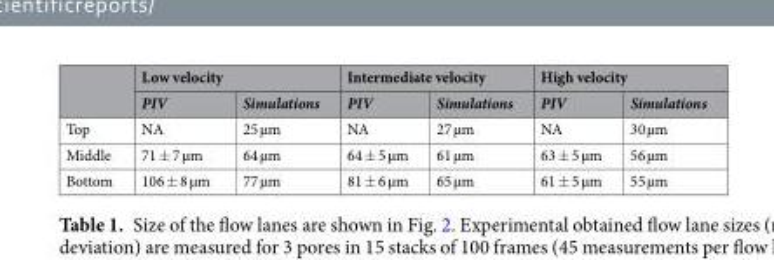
<table><thead><tr><td rowspan="2"></td><td colspan="2">Low velocity</td><td colspan="2">Intermediate velocity</td><td colspan="2">High velocity</td></tr><tr><td>PIV</td><td>Simulations</td><td>PIV</td><td>Simulations</td><td>PIV</td><td>Simulations</td></tr></thead><tbody><tr><td>Top</td><td>NA</td><td>25 µm</td><td>NA</td><td>27 µm</td><td>NA</td><td>30 µm</td></tr><tr><td>Middle</td><td>71 ± 7 µm</td><td>64 µm</td><td>64 ± 5 µm</td><td>61 µm</td><td>63 ± 5 µm</td><td>56 µm</td></tr><tr><td>Bottom</td><td>106 ± 8 µm</td><td>77 µm</td><td>81 ± 6 µm</td><td>65 µm</td><td>61 ± 5 µm</td><td>55 µm</td></tr></tbody></table>